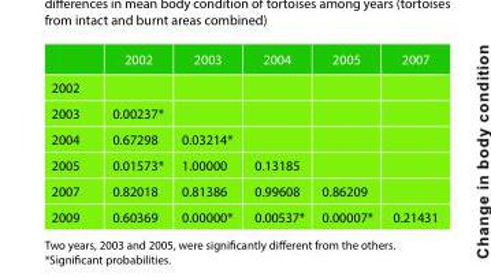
<table><thead><tr><td></td><td>2002</td><td>2003</td><td>2004</td><td>2005</td><td>2007</td></tr></thead><tbody><tr><td colspan="6">2002</td></tr><tr><td>2003</td><td>0.00237*</td><td></td><td></td><td></td><td></td></tr><tr><td>2004</td><td>0.67298</td><td>0.03214*</td><td></td><td></td><td></td></tr><tr><td>2005</td><td>0.01573*</td><td>1.00000</td><td>0.13185</td><td></td><td></td></tr><tr><td>2007</td><td>0.82018</td><td>0.81386</td><td>0.99608</td><td>0.86209</td><td></td></tr><tr><td>2009</td><td>0.60369</td><td>0.00000*</td><td>0.00537*</td><td>0.00007*</td><td>0.21431</td></tr></tbody></table>